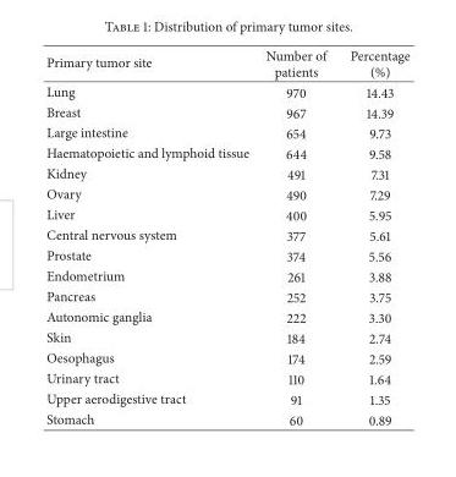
<table><thead><tr><td>Primary tumor site</td><td>Number of patients</td><td>Percentage (%)</td></tr></thead><tbody><tr><td>Lung</td><td>970</td><td>14.43</td></tr><tr><td>Breast</td><td>967</td><td>14.39</td></tr><tr><td>Large intestine</td><td>654</td><td>9.73</td></tr><tr><td>Haematopoietic and lymphoid tissue</td><td>644</td><td>9.58</td></tr><tr><td>Kidney</td><td>491</td><td>7.31</td></tr><tr><td>Ovary</td><td>490</td><td>7.29</td></tr><tr><td>Liver</td><td>400</td><td>5.95</td></tr><tr><td>Central nervous system</td><td>377</td><td>5.61</td></tr><tr><td>Prostate</td><td>374</td><td>5.56</td></tr><tr><td>Endometrium</td><td>261</td><td>3.88</td></tr><tr><td>Pancreas</td><td>252</td><td>3.75</td></tr><tr><td>Autonomic ganglia</td><td>222</td><td>3.30</td></tr><tr><td>Skin</td><td>184</td><td>2.74</td></tr><tr><td>Oesophagus</td><td>174</td><td>2.59</td></tr><tr><td>Urinary tract</td><td>110</td><td>1.64</td></tr><tr><td>Upper aerodigestive tract</td><td>91</td><td>1.35</td></tr><tr><td>Stomach</td><td>60</td><td>0.89</td></tr></tbody></table>